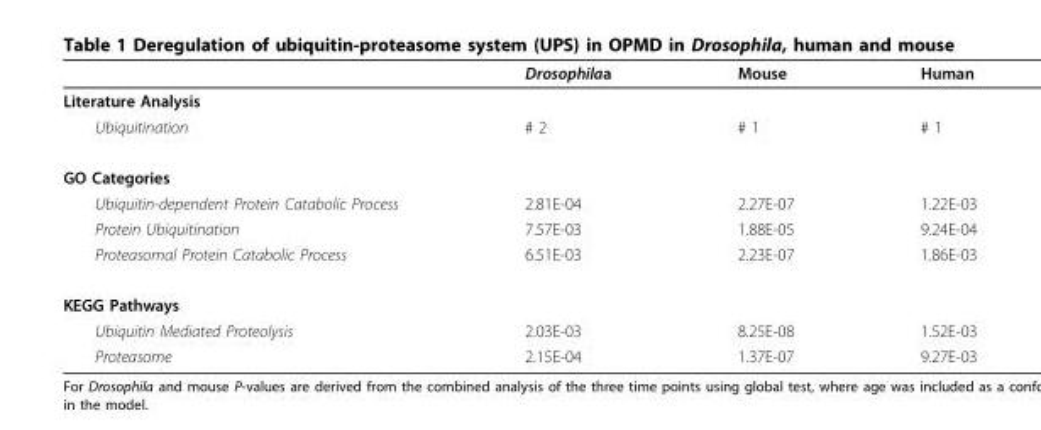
<table><thead><tr><td></td><td>Drosophilaa</td><td>Mouse</td><td>Human</td></tr></thead><tbody><tr><td colspan="4">Literature Analysis</td></tr><tr><td>Ubiquitination</td><td># 2</td><td># 1</td><td># 1</td></tr><tr><td colspan="4">GO Categories</td></tr><tr><td>Ubiquitin-dependent Protein Catabolic Process</td><td>2.81E-04</td><td>2.27E-07</td><td>1.22E-03</td></tr><tr><td>Protein Ubiquitination</td><td>7.57E-03</td><td>1.88E-05</td><td>9.24E-04</td></tr><tr><td>Proteasomal Protein Catabolic Process</td><td>6.51E-03</td><td>2.23E-07</td><td>1.86E-03</td></tr><tr><td colspan="4">KEGG Pathways</td></tr><tr><td>Ubiquitin Mediated Proteolysis</td><td>2.03E-03</td><td>8.25E-08</td><td>1.52E-03</td></tr><tr><td>Proteasome</td><td>2.15E-04</td><td>1.37E-07</td><td>9.27E-03</td></tr></tbody></table>